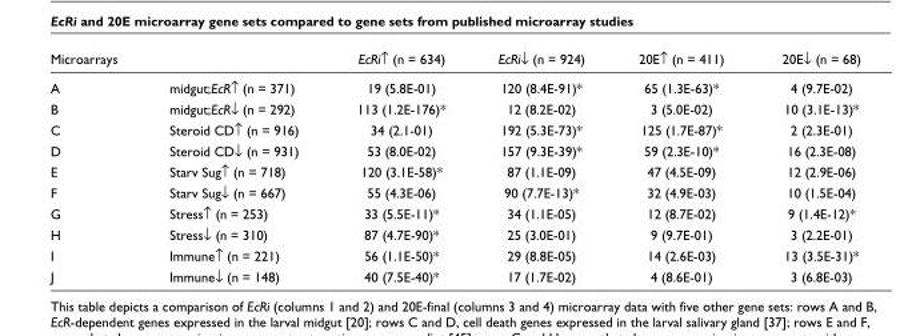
<table><thead><tr><td colspan="2">Microarrays</td><td rowspan="2">EcRi↑ (n = 634) 19 (5.8E-01)</td><td rowspan="2">EcRi↓ (n = 924) 120 (8.4E-91)*</td><td rowspan="2">20E↑ (n = 411) 65 (1.3E-63)*</td><td rowspan="2">20E↓ (n = 68) 4 (9.7E-02)</td></tr><tr><td>A</td><td>midgut;EcR↑ (n = 371)</td></tr></thead><tbody><tr><td>B</td><td>midgut;EcR↓ (n = 292)</td><td>113 (1.2E-176)*</td><td>12 (8.2E-02)</td><td>3 (5.0E-02)</td><td>10 (3.1E-13)*</td></tr><tr><td>C</td><td>Steroid CD↑ (n = 916)</td><td>34 (2.1-01)</td><td>192 (5.3E-73)*</td><td>125 (1.7E-87)*</td><td>2 (2.3E-01)</td></tr><tr><td>D</td><td>Steroid CD↓ (n = 931)</td><td>53 (8.0E-02)</td><td>157 (9.3E-39)*</td><td>59 (2.3E-10)*</td><td>16 (2.3E-08)</td></tr><tr><td>E</td><td>Starv Sug↑ (n = 718)</td><td>120 (3.1E-58)*</td><td>87 (1.1E-09)</td><td>47 (4.5E-09)</td><td>12 (2.9E-06)</td></tr><tr><td>F</td><td>Starv Sug↓ (n = 667)</td><td>55 (4.3E-06)</td><td>90 (7.7E-13)*</td><td>32 (4.9E-03)</td><td>10 (1.5E-04)</td></tr><tr><td>G</td><td>Stress↑ (n = 253)</td><td>33 (5.5E-11)*</td><td>34 (1.1E-05)</td><td>12 (8.7E-02)</td><td>9 (1.4E-12)*</td></tr><tr><td>H</td><td>Stress↓ (n = 310)</td><td>87 (4.7E-90)*</td><td>25 (3.0E-01)</td><td>9 (9.7E-01)</td><td>3 (2.2E-01)</td></tr><tr><td>I</td><td>Immune↑ (n = 221)</td><td>56 (1.1E-50)*</td><td>29 (8.8E-05)</td><td>14 (2.6E-03)</td><td>13 (3.5E-31)*</td></tr><tr><td>J</td><td>Immune↓ (n = 148)</td><td>40 (7.5E-40)*</td><td>17 (1.7E-02)</td><td>4 (8.6E-01)</td><td>3 (6.8E-03)</td></tr></tbody></table>